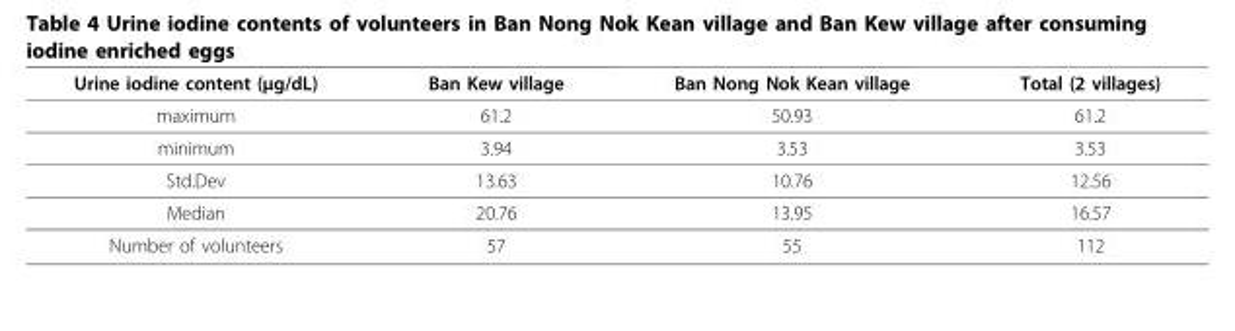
<table><thead><tr><td>Urine iodine content (μg/dL)</td><td>Ban Kew village</td><td>Ban Nong Nok Kean village</td><td>Total (2 villages)</td></tr></thead><tbody><tr><td>maximum</td><td>61.2</td><td>50.93</td><td>61.2</td></tr><tr><td>minimum</td><td>3.94</td><td>3.53</td><td>3.53</td></tr><tr><td>Std.Dev</td><td>13.63</td><td>10.76</td><td>12.56</td></tr><tr><td>Median</td><td>20.76</td><td>13.95</td><td>16.57</td></tr><tr><td>Number of volunteers</td><td>57</td><td>55</td><td>112</td></tr></tbody></table>